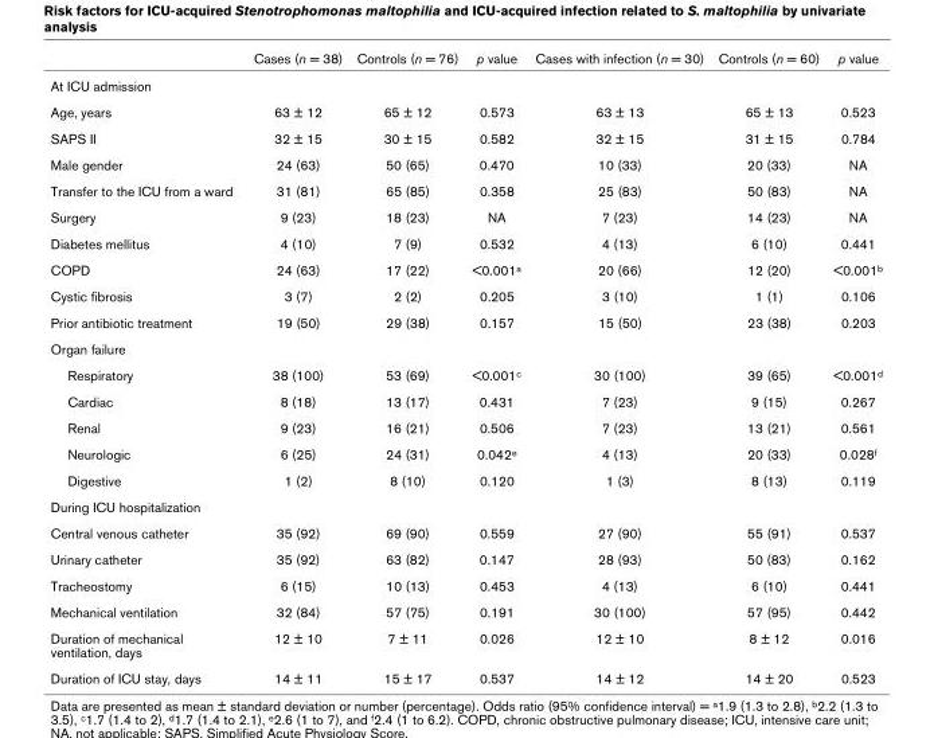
<table><thead><tr><td></td><td>Cases (n = 38)</td><td>Controls (n = 76)</td><td>p value</td><td>Cases with infection (n = 30)</td><td>Controls (n = 60)</td><td>p value</td></tr></thead><tbody><tr><td colspan="7">At ICU admission</td></tr><tr><td>Age, years</td><td>63 ± 12</td><td>65 ± 12</td><td>0.573</td><td>63 ± 13</td><td>65 ± 13</td><td>0.523</td></tr><tr><td>SAPS II</td><td>32 ± 15</td><td>30 ± 15</td><td>0.582</td><td>32 ± 15</td><td>31 ± 15</td><td>0.784</td></tr><tr><td>Male gender</td><td>24 (63)</td><td>50 (65)</td><td>0.470</td><td>10 (33)</td><td>20 (33)</td><td>NA</td></tr><tr><td>Transfer to the ICU from a ward</td><td>31 (81)</td><td>65 (85)</td><td>0.358</td><td>25 (83)</td><td>50 (83)</td><td>NA</td></tr><tr><td>Surgery</td><td>9 (23)</td><td>18 (23)</td><td>NA</td><td>7 (23)</td><td>14 (23)</td><td>NA</td></tr><tr><td>Diabetes mellitus</td><td>4 (10)</td><td>7 (9)</td><td>0.532</td><td>4 (13)</td><td>6 (10)</td><td>0.441</td></tr><tr><td>COPD</td><td>24 (63)</td><td>17 (22)</td><td>&lt;0.001a</td><td>20 (66)</td><td>12 (20)</td><td>&lt;0.001b</td></tr><tr><td>Cystic fibrosis</td><td>3 (7)</td><td>2 (2)</td><td>0.205</td><td>3 (10)</td><td>1 (1)</td><td>0.106</td></tr><tr><td>Prior antibiotic treatment</td><td>19 (50)</td><td>29 (38)</td><td>0.157</td><td>15 (50)</td><td>23 (38)</td><td>0.203</td></tr><tr><td colspan="7">Organ failure</td></tr><tr><td>Respiratory</td><td>38 (100)</td><td>53 (69)</td><td>&lt;0.001c</td><td>30 (100)</td><td>39 (65)</td><td>&lt;0.001d</td></tr><tr><td>Cardiac</td><td>8 (18)</td><td>13 (17)</td><td>0.431</td><td>7 (23)</td><td>9 (15)</td><td>0.267</td></tr><tr><td>Renal</td><td>9 (23)</td><td>16 (21)</td><td>0.506</td><td>7 (23)</td><td>13 (21)</td><td>0.561</td></tr><tr><td>Neurologic</td><td>6 (25)</td><td>24 (31)</td><td>0.042e</td><td>4 (13)</td><td>20 (33)</td><td>0.028f</td></tr><tr><td>Digestive</td><td>1 (2)</td><td>8 (10)</td><td>0.120</td><td>1 (3)</td><td>8 (13)</td><td>0.119</td></tr><tr><td colspan="7">During ICU hospitalization</td></tr><tr><td>Central venous catheter</td><td>35 (92)</td><td>69 (90)</td><td>0.559</td><td>27 (90)</td><td>55 (91)</td><td>0.537</td></tr><tr><td>Urinary catheter</td><td>35 (92)</td><td>63 (82)</td><td>0.147</td><td>28 (93)</td><td>50 (83)</td><td>0.162</td></tr><tr><td>Tracheostomy</td><td>6 (15)</td><td>10 (13)</td><td>0.453</td><td>4 (13)</td><td>6 (10)</td><td>0.441</td></tr><tr><td>Mechanical ventilation</td><td>32 (84)</td><td>57 (75)</td><td>0.191</td><td>30 (100)</td><td>57 (95)</td><td>0.442</td></tr><tr><td>Duration of mechanical ventilation, days</td><td>12 ± 10</td><td>7 ± 11</td><td>0.026</td><td>12 ± 10</td><td>8 ± 12</td><td>0.016</td></tr><tr><td>Duration of ICU stay, days</td><td>14 ± 11</td><td>15 ± 17</td><td>0.537</td><td>14 ± 12</td><td>14 ± 20</td><td>0.523</td></tr></tbody></table>